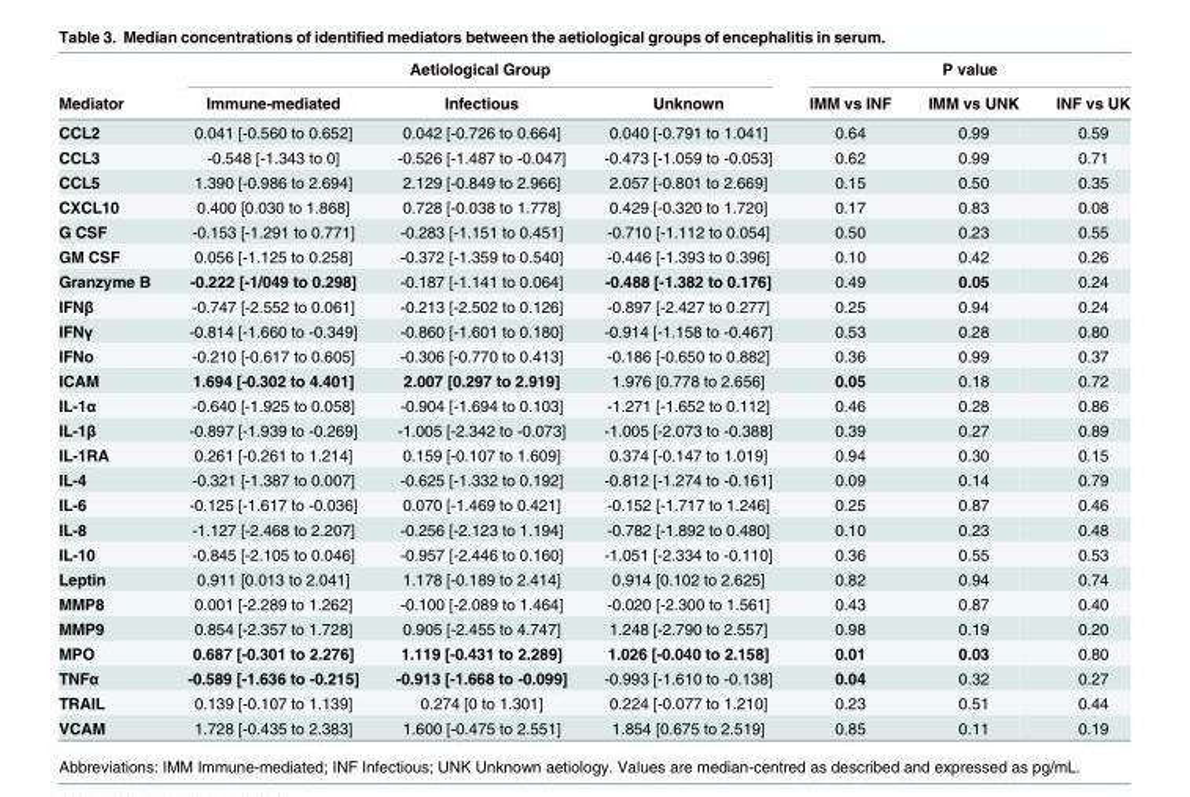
<table><thead><tr><td rowspan="2">Mediator</td><td colspan="3">Aetiological Group</td><td colspan="3">P value</td></tr><tr><td>Immune-mediated</td><td>Infectious</td><td>Unknown</td><td>IMM vs INF</td><td>IMM vs UNK</td><td>INF vs UK</td></tr></thead><tbody><tr><td>CCL2</td><td>0.041 [-0.560 to 0.652]</td><td>0.042 [-0.726 to 0.664]</td><td>0.040 [-0.791 to 1.041]</td><td>0.64</td><td>0.99</td><td>0.59</td></tr><tr><td>CCL3</td><td>-0.548 [-1.343 to 0]</td><td>-0.526 [-1.487 to -0.047]</td><td>-0.473 [-1.059 to -0.053]</td><td>0.62</td><td>0.99</td><td>0.71</td></tr><tr><td>CCL5</td><td>1.390 [-0.986 to 2.694]</td><td>2.129 [-0.849 to 2.966]</td><td>2.057 [-0.801 to 2.669]</td><td>0.15</td><td>0.50</td><td>0.35</td></tr><tr><td>CXCL10</td><td>0.400 [0.030 to 1.868]</td><td>0.728 [-0.038 to 1.778]</td><td>0.429 [-0.320 to 1.720]</td><td>0.17</td><td>0.83</td><td>0.08</td></tr><tr><td>G CSF</td><td>-0.153 [-1.291 to 0.771]</td><td>-0.283 [-1.151 to 0.451]</td><td>-0.710 [-1.112 to 0.054]</td><td>0.50</td><td>0.23</td><td>0.55</td></tr><tr><td>GM CSF</td><td>0.056 [-1.125 to 0.258]</td><td>-0.372 [-1.359 to 0.540]</td><td>-0.446 [-1.393 to 0.396]</td><td>0.10</td><td>0.42</td><td>0.26</td></tr><tr><td>Granzyme B</td><td>-0.222 [-1/049 to 0.298]</td><td>-0.187 [-1.141 to 0.064]</td><td>-0.488 [-1.382 to 0.176]</td><td>0.49</td><td>0.05</td><td>0.24</td></tr><tr><td>IFNβ</td><td>-0.747 [-2.552 to 0.061]</td><td>-0.213 [-2.502 to 0.126]</td><td>-0.897 [-2.427 to 0.277]</td><td>0.25</td><td>0.94</td><td>0.24</td></tr><tr><td>IFNγ</td><td>-0.814 [-1.660 to -0.349]</td><td>-0.860 [-1.601 to 0.180]</td><td>-0.914 [-1.158 to -0.467]</td><td>0.53</td><td>0.28</td><td>0.80</td></tr><tr><td>IFNo</td><td>-0.210 [-0.617 to 0.605]</td><td>-0.306 [-0.770 to 0.413]</td><td>-0.186 [-0.650 to 0.882]</td><td>0.36</td><td>0.99</td><td>0.37</td></tr><tr><td>ICAM</td><td>1.694 [-0.302 to 4.401]</td><td>2.007 [0.297 to 2.919]</td><td>1.976 [0.778 to 2.656]</td><td>0.05</td><td>0.18</td><td>0.72</td></tr><tr><td>IL-1α</td><td>-0.640 [-1.925 to 0.058]</td><td>-0.904 [-1.694 to 0.103]</td><td>-1.271 [-1.652 to 0.112]</td><td>0.46</td><td>0.28</td><td>0.86</td></tr><tr><td>IL-1β</td><td>-0.897 [-1.939 to -0.269]</td><td>-1.005 [-2.342 to -0.073]</td><td>-1.005 [-2.073 to -0.388]</td><td>0.39</td><td>0.27</td><td>0.89</td></tr><tr><td>IL-1RA</td><td>0.261 [-0.261 to 1.214]</td><td>0.159 [-0.107 to 1.609]</td><td>0.374 [-0.147 to 1.019]</td><td>0.94</td><td>0.30</td><td>0.15</td></tr><tr><td>IL-4</td><td>-0.321 [-1.387 to 0.007]</td><td>-0.625 [-1.332 to 0.192]</td><td>-0.812 [-1.274 to -0.161]</td><td>0.09</td><td>0.14</td><td>0.79</td></tr><tr><td>IL-6</td><td>-0.125 [-1.617 to -0.036]</td><td>0.070 [-1.469 to 0.421]</td><td>-0.152 [-1.717 to 1.246]</td><td>0.25</td><td>0.87</td><td>0.46</td></tr><tr><td>IL-8</td><td>-1.127 [-2.468 to 2.207]</td><td>-0.256 [-2.123 to 1.194]</td><td>-0.782 [-1.892 to 0.480]</td><td>0.10</td><td>0.23</td><td>0.48</td></tr><tr><td>IL-10</td><td>-0.845 [-2.105 to 0.046]</td><td>-0.957 [-2.446 to 0.160]</td><td>-1.051 [-2.334 to -0.110]</td><td>0.36</td><td>0.55</td><td>0.53</td></tr><tr><td>Leptin</td><td>0.911 [0.013 to 2.041]</td><td>1.178 [-0.189 to 2.414]</td><td>0.914 [0.102 to 2.625]</td><td>0.82</td><td>0.94</td><td>0.74</td></tr><tr><td>MMP8</td><td>0.001 [-2.289 to 1.262]</td><td>-0.100 [-2.089 to 1.464]</td><td>-0.020 [-2.300 to 1.561]</td><td>0.43</td><td>0.87</td><td>0.40</td></tr><tr><td>MMP9</td><td>0.854 [-2.357 to 1.728]</td><td>0.905 [-2.455 to 4.747]</td><td>1.248 [-2.790 to 2.557]</td><td>0.98</td><td>0.19</td><td>0.20</td></tr><tr><td>MPO</td><td>0.687 [-0.301 to 2.276]</td><td>1.119 [-0.431 to 2.289]</td><td>1.026 [-0.040 to 2.158]</td><td>0.01</td><td>0.03</td><td>0.80</td></tr><tr><td>TNFα</td><td>-0.589 [-1.636 to -0.215]</td><td>-0.913 [-1.668 to -0.099]</td><td>-0.993 [-1.610 to -0.138]</td><td>0.04</td><td>0.32</td><td>0.27</td></tr><tr><td>TRAIL</td><td>0.139 [-0.107 to 1.139]</td><td>0.274 [0 to 1.301]</td><td>0.224 [-0.077 to 1.210]</td><td>0.23</td><td>0.51</td><td>0.44</td></tr><tr><td>VCAM</td><td>1.728 [-0.435 to 2.383]</td><td>1.600 [-0.475 to 2.551]</td><td>1.854 [0.675 to 2.519]</td><td>0.85</td><td>0.11</td><td>0.19</td></tr></tbody></table>